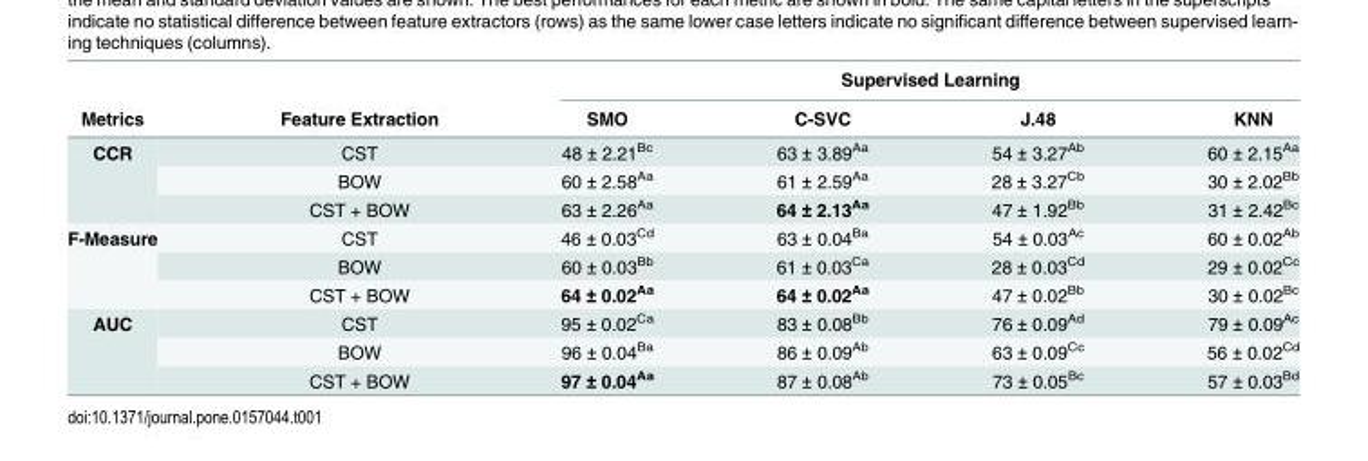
<table><thead><tr><td rowspan="2">Metrics</td><td rowspan="2">Feature Extraction</td><td colspan="4">Supervised Learning</td></tr><tr><td>SMO</td><td>C-SVC</td><td>J.48</td><td>KNN</td></tr></thead><tbody><tr><td rowspan="3">CCR</td><td>CST</td><td>48 ± 2.21<sup>Bc</sup></td><td>63 ± 3.89<sup>Aa</sup></td><td>54 ± 3.27<sup>Ab</sup></td><td>60 ± 2.15<sup>Aa</sup></td></tr><tr><td>BOW</td><td>60 ± 2.58<sup>Aa</sup></td><td>61 ± 2.59<sup>Aa</sup></td><td>28 ± 3.27<sup>Cb</sup></td><td>30 ± 2.02<sup>Bb</sup></td></tr><tr><td>CST + BOW</td><td>63 ± 2.26<sup>Aa</sup></td><td>64 ± 2.13<sup>Aa</sup></td><td>47 ± 1.92<sup>Bb</sup></td><td>31 ± 2.42<sup>Bc</sup></td></tr><tr><td rowspan="3">F-Measure</td><td>CST</td><td>46 ± 0.03<sup>Cd</sup></td><td>63 ± 0.04<sup>Ba</sup></td><td>54 ± 0.03<sup>Ac</sup></td><td>60 ± 0.02<sup>Ab</sup></td></tr><tr><td>BOW</td><td>60 ± 0.03<sup>Bb</sup></td><td>61 ± 0.03<sup>Ca</sup></td><td>28 ± 0.03<sup>Cd</sup></td><td>29 ± 0.02<sup>Cc</sup></td></tr><tr><td>CST + BOW</td><td>64 ± 0.02<sup>Aa</sup></td><td>64 ± 0.02<sup>Aa</sup></td><td>47 ± 0.02<sup>Bb</sup></td><td>30 ± 0.02<sup>Bc</sup></td></tr><tr><td rowspan="3">AUC</td><td>CST</td><td>95 ± 0.02<sup>Ca</sup></td><td>83 ± 0.08<sup>Bb</sup></td><td>76 ± 0.09<sup>Ad</sup></td><td>79 ± 0.09<sup>Ac</sup></td></tr><tr><td>BOW</td><td>96 ± 0.04<sup>Ba</sup></td><td>86 ± 0.09<sup>Ab</sup></td><td>63 ± 0.09<sup>Cc</sup></td><td>56 ± 0.02<sup>Cd</sup></td></tr><tr><td>CST + BOW</td><td>97 ± 0.04<sup>Aa</sup></td><td>87 ± 0.08<sup>Ab</sup></td><td>73 ± 0.05<sup>Bc</sup></td><td>57 ± 0.03<sup>Bd</sup></td></tr></tbody></table>